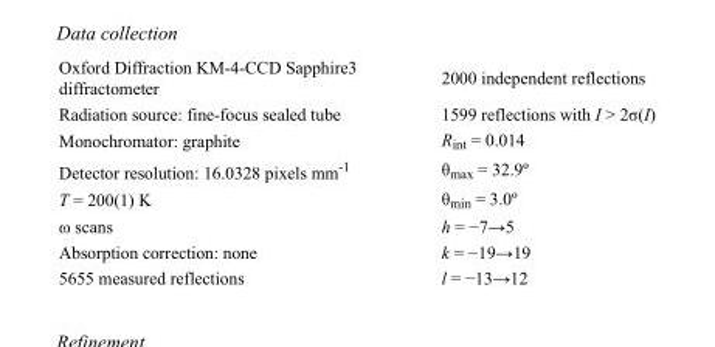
<table><tbody><tr><td>Oxford Diffraction KM-4-CCD Sapphire3 diffractometer</td><td>2000 independent reflections</td></tr><tr><td>Radiation source: fine-focus sealed tube</td><td>1599 reflections with I &gt; 2σ(I)</td></tr><tr><td>Monochromator: graphite</td><td>R<sub>int</sub> = 0.014</td></tr><tr><td>Detector resolution: 16.0328 pixels mm<sup>-1</sup></td><td>θ<sub>max</sub> = 32.9º</td></tr><tr><td>T = 200(1) K</td><td>θ<sub>min</sub> = 3.0º</td></tr><tr><td>ω scans</td><td>h = −7→5</td></tr><tr><td>Absorption correction: none</td><td>k = −19→19</td></tr><tr><td>5655 measured reflections</td><td>l = −13→12</td></tr></tbody></table>